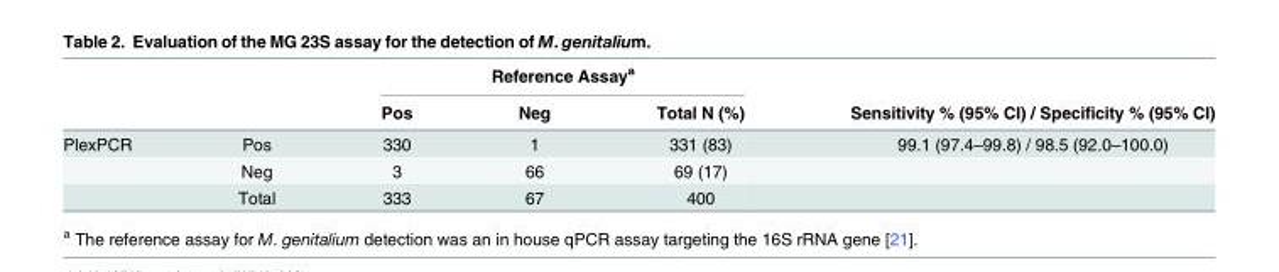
<table><thead><tr><td rowspan="2"></td><td rowspan="2"></td><td colspan="3">Reference Assay<sup>a</sup></td><td rowspan="2">Sensitivity % (95% CI) / Specificity % (95% CI)</td></tr><tr><td>Pos</td><td>Neg</td><td>Total N (%)</td></tr></thead><tbody><tr><td rowspan="3">PlexPCR</td><td>Pos</td><td>330</td><td>1</td><td>331 (83)</td><td>99.1 (97.4–99.8) / 98.5 (92.0–100.0)</td></tr><tr><td>Neg</td><td>3</td><td>66</td><td>69 (17)</td><td></td></tr><tr><td>Total</td><td>333</td><td>67</td><td>400</td><td></td></tr></tbody></table>